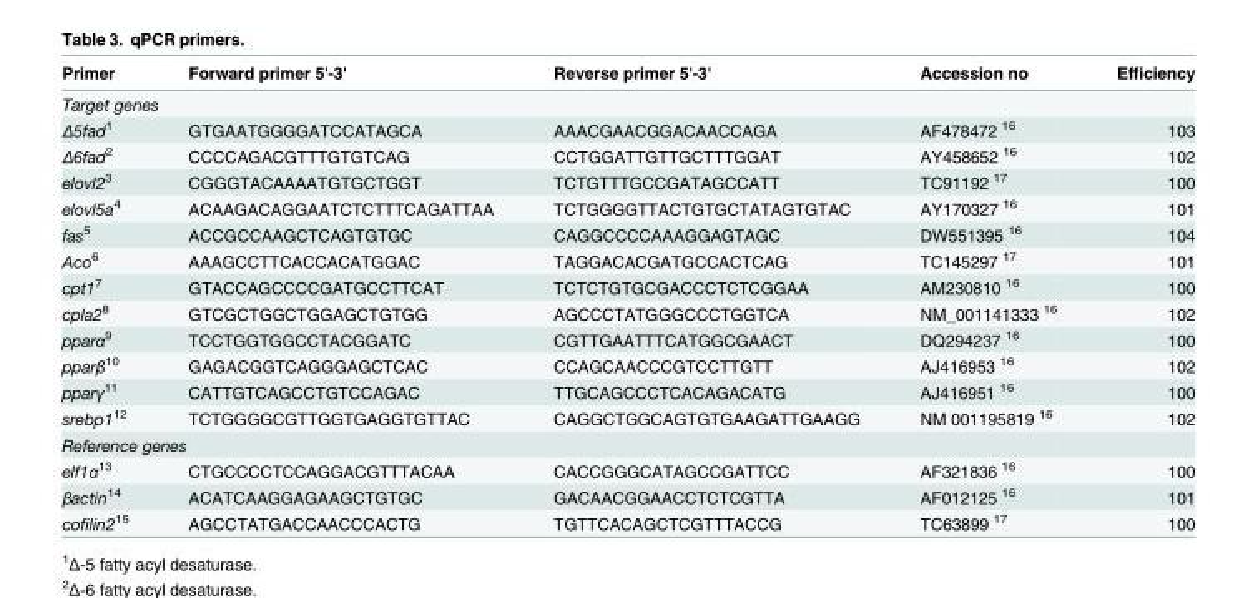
<table><thead><tr><td>Primer</td><td>Forward primer 5&#x27;-3&#x27;</td><td>Reverse primer 5&#x27;-3&#x27;</td><td>Accession no</td><td>Efficiency</td></tr></thead><tbody><tr><td colspan="5">Target genes</td></tr><tr><td>Δ5fad<sup>1</sup></td><td>GTGAATGGGGATCCATAGCA</td><td>AAACGAACGGACAACCAGA</td><td>AF478472 <sup>16</sup></td><td>103</td></tr><tr><td>Δ6fad<sup>2</sup></td><td>CCCCAGACGTTTGTGTCAG</td><td>CCTGGATTGTTGCTTTGGAT</td><td>AY458652 <sup>16</sup></td><td>102</td></tr><tr><td>elovl2<sup>3</sup></td><td>CGGGTACAAAATGTGCTGGT</td><td>TCTGTTTGCCGATAGCCATT</td><td>TC91192 <sup>17</sup></td><td>100</td></tr><tr><td>elovl5a<sup>4</sup></td><td>ACAAGACAGGAATCTCTTTCAGATTAA</td><td>TCTGGGGTTACTGTGCTATAGTGTAC</td><td>AY170327 <sup>16</sup></td><td>101</td></tr><tr><td>fas<sup>5</sup></td><td>ACCGCCAAGCTCAGTGTGC</td><td>CAGGCCCCAAAGGAGTAGC</td><td>DW551395 <sup>16</sup></td><td>104</td></tr><tr><td>Aco<sup>6</sup></td><td>AAAGCCTTCACCACATGGAC</td><td>TAGGACACGATGCCACTCAG</td><td>TC145297 <sup>17</sup></td><td>101</td></tr><tr><td>cpt1<sup>7</sup></td><td>GTACCAGCCCCGATGCCTTCAT</td><td>TCTCTGTGCGACCCTCTCGGAA</td><td>AM230810 <sup>16</sup></td><td>100</td></tr><tr><td>cpla2<sup>8</sup></td><td>GTCGCTGGCTGGAGCTGTGG</td><td>AGCCCTATGGGCCCTGGTCA</td><td>NM_001141333 <sup>16</sup></td><td>102</td></tr><tr><td>pparα<sup>9</sup></td><td>TCCTGGTGGCCTACGGATC</td><td>CGTTGAATTTCATGGCGAACT</td><td>DQ294237 <sup>16</sup></td><td>100</td></tr><tr><td>pparβ<sup>10</sup></td><td>GAGACGGTCAGGGAGCTCAC</td><td>CCAGCAACCCGTCCTTGTT</td><td>AJ416953 <sup>16</sup></td><td>102</td></tr><tr><td>pparγ<sup>11</sup></td><td>CATTGTCAGCCTGTCCAGAC</td><td>TTGCAGCCCTCACAGACATG</td><td>AJ416951 <sup>16</sup></td><td>100</td></tr><tr><td>srebp1<sup>12</sup></td><td>TCTGGGGCGTTGGTGAGGTGTTAC</td><td>CAGGCTGGCAGTGTGAAGATTGAAGG</td><td>NM 001195819 <sup>16</sup></td><td>102</td></tr><tr><td colspan="5">Reference genes</td></tr><tr><td>elf1α<sup>13</sup></td><td>CTGCCCCTCCAGGACGTTTACAA</td><td>CACCGGGCATAGCCGATTCC</td><td>AF321836 <sup>16</sup></td><td>100</td></tr><tr><td>βactin<sup>14</sup></td><td>ACATCAAGGAGAAGCTGTGC</td><td>GACAACGGAACCTCTCGTTA</td><td>AF012125 <sup>16</sup></td><td>101</td></tr><tr><td>cofilin2<sup>15</sup></td><td>AGCCTATGACCAACCCACTG</td><td>TGTTCACAGCTCGTTTACCG</td><td>TC63899 <sup>17</sup></td><td>100</td></tr></tbody></table>